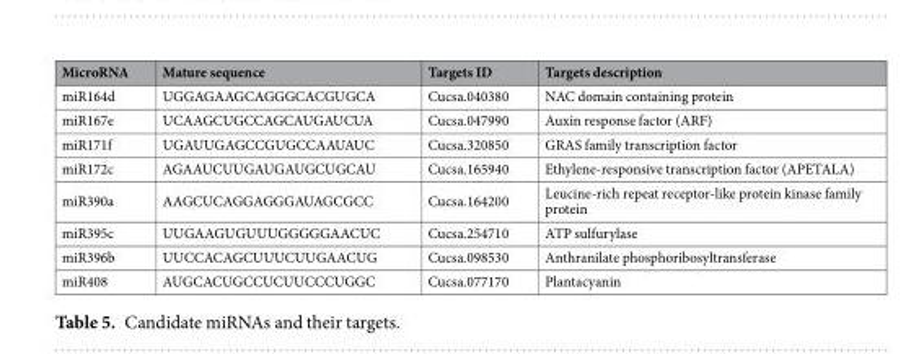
<table><thead><tr><td>MicroRNA</td><td>Mature sequence</td><td>Targets ID</td><td>Targets description</td></tr></thead><tbody><tr><td>miR164d</td><td>UGGAGAAGCAGGGCACGUGCA</td><td>Cucsa.040380</td><td>NAC domain containing protein</td></tr><tr><td>miR167e</td><td>UCAAGCUGCCAGCAUGAUCUA</td><td>Cucsa.047990</td><td>Auxin response factor (ARF)</td></tr><tr><td>miR171f</td><td>UGAUUGAGCCGUGCCAAUAUC</td><td>Cucsa.320850</td><td>GRAS family transcription factor</td></tr><tr><td>miR172c</td><td>AGAAUCUUGAUGAUGCUGCAU</td><td>Cucsa.165940</td><td>Ethylene-responsive transcription factor (APETALA)</td></tr><tr><td>miR390a</td><td>AAGCUCAGGAGGGAUAGCGCC</td><td>Cucsa.164200</td><td>Leucine-rich repeat receptor-like protein kinase family protein</td></tr><tr><td>miR395c</td><td>UUGAAGUGUUUGGGGGAACUC</td><td>Cucsa.254710</td><td>ATP sulfurylase</td></tr><tr><td>miR396b</td><td>UUCCACAGCUUUCUUGAACUG</td><td>Cucsa.098530</td><td>Anthranilate phosphoribosyltransferase</td></tr><tr><td>miR408</td><td>AUGCACUGCCUCUUCCCUGGC</td><td>Cucsa.077170</td><td>Plantacyanin</td></tr></tbody></table>